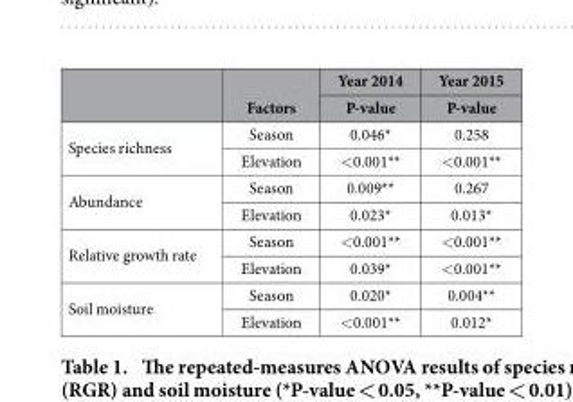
<table><thead><tr><td rowspan="2"></td><td rowspan="2">Factors</td><td rowspan="2">Year 2014 P-value</td><td rowspan="2">Year 2015 P-value</td></tr><tr></tr></thead><tbody><tr><td rowspan="2">Species richness</td><td>Season</td><td>0.046*</td><td>0.258</td></tr><tr><td>Elevation</td><td>&lt; 0.001**</td><td>&lt; 0.001**</td></tr><tr><td rowspan="2">Abundance</td><td>Season</td><td>0.009**</td><td>0.267</td></tr><tr><td>Elevation</td><td>0.023*</td><td>0.013*</td></tr><tr><td rowspan="2">Relative growth rate</td><td>Season</td><td>&lt; 0.001**</td><td>&lt; 0.001**</td></tr><tr><td>Elevation</td><td>0.039*</td><td>&lt; 0.001**</td></tr><tr><td rowspan="2">Soil moisture</td><td>Season</td><td>0.020*</td><td>0.004**</td></tr><tr><td>Elevation</td><td>&lt; 0.001**</td><td>0.012*</td></tr></tbody></table>